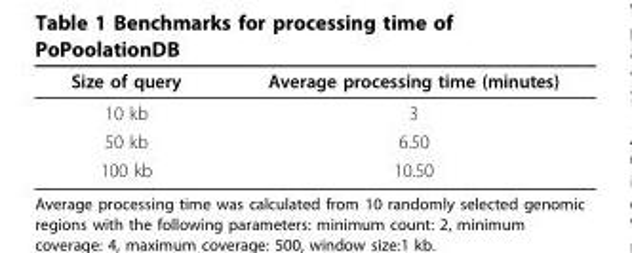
<table><thead><tr><td>Size of query</td><td>Average processing time (minutes)</td></tr></thead><tbody><tr><td>10 kb</td><td>3</td></tr><tr><td>50 kb</td><td>6.50</td></tr><tr><td>100 kb</td><td>10.50</td></tr></tbody></table>